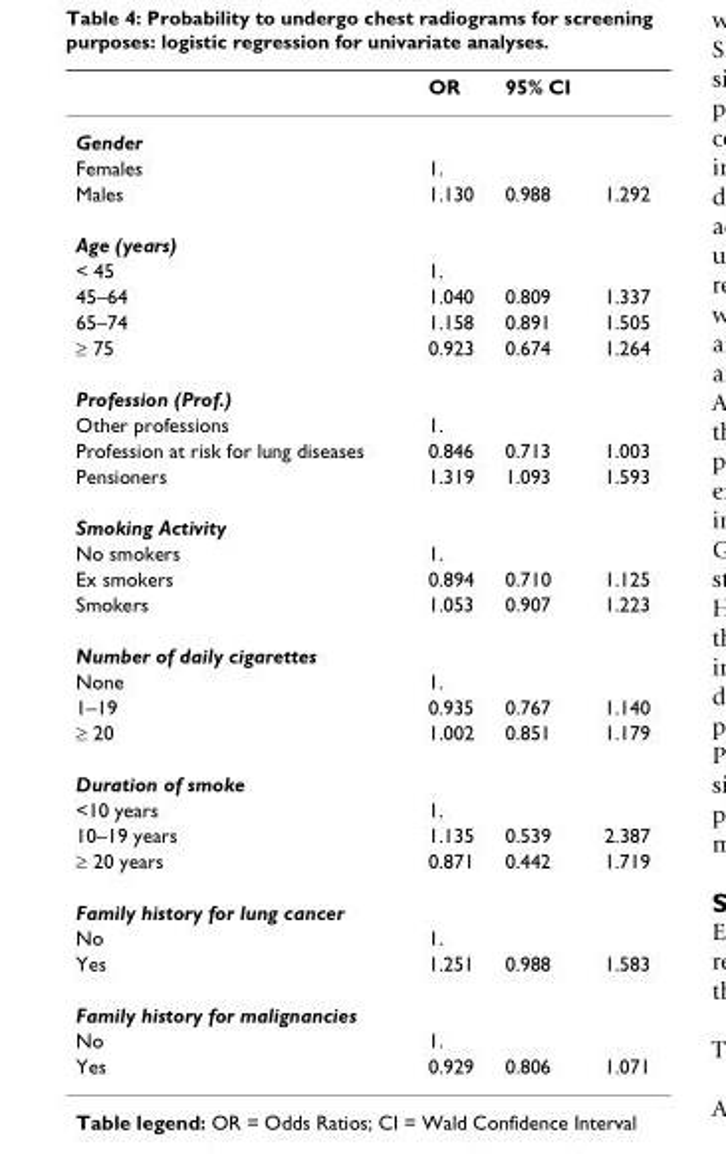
<table><thead><tr><td></td><td>OR</td><td>95% CI</td><td></td></tr></thead><tbody><tr><td colspan="4">Gender</td></tr><tr><td>Females</td><td>1.</td><td></td><td></td></tr><tr><td>Males</td><td>1.130</td><td>0.988</td><td>1.292</td></tr><tr><td colspan="4">Age (years)</td></tr><tr><td>&lt; 45</td><td>1.</td><td></td><td></td></tr><tr><td>45–64</td><td>1.040</td><td>0.809</td><td>1.337</td></tr><tr><td>65–74</td><td>1.158</td><td>0.891</td><td>1.505</td></tr><tr><td>≥ 75</td><td>0.923</td><td>0.674</td><td>1.264</td></tr><tr><td colspan="4">Profession (Prof.)</td></tr><tr><td>Other professions</td><td>1.</td><td></td><td></td></tr><tr><td>Profession at risk for lung diseases</td><td>0.846</td><td>0.713</td><td>1.003</td></tr><tr><td>Pensioners</td><td>1.319</td><td>1.093</td><td>1.593</td></tr><tr><td colspan="4">Smoking Activity</td></tr><tr><td>No smokers</td><td>1.</td><td></td><td></td></tr><tr><td>Ex smokers</td><td>0.894</td><td>0.710</td><td>1.125</td></tr><tr><td>Smokers</td><td>1.053</td><td>0.907</td><td>1.223</td></tr><tr><td colspan="4">Number of daily cigarettes</td></tr><tr><td>None</td><td>1.</td><td></td><td></td></tr><tr><td>1–19</td><td>0.935</td><td>0.767</td><td>1.140</td></tr><tr><td>≥ 20</td><td>1.002</td><td>0.851</td><td>1.179</td></tr><tr><td colspan="4">Duration of smoke</td></tr><tr><td>&lt;10 years</td><td>1.</td><td></td><td></td></tr><tr><td>10–19 years</td><td>1.135</td><td>0.539</td><td>2.387</td></tr><tr><td>≥ 20 years</td><td>0.871</td><td>0.442</td><td>1.719</td></tr><tr><td colspan="4">Family history for lung cancer</td></tr><tr><td>No</td><td>1.</td><td></td><td></td></tr><tr><td>Yes</td><td>1.251</td><td>0.988</td><td>1.583</td></tr><tr><td colspan="4">Family history for malignancies</td></tr><tr><td>No</td><td>1.</td><td></td><td></td></tr><tr><td>Yes</td><td>0.929</td><td>0.806</td><td>1.071</td></tr></tbody></table>